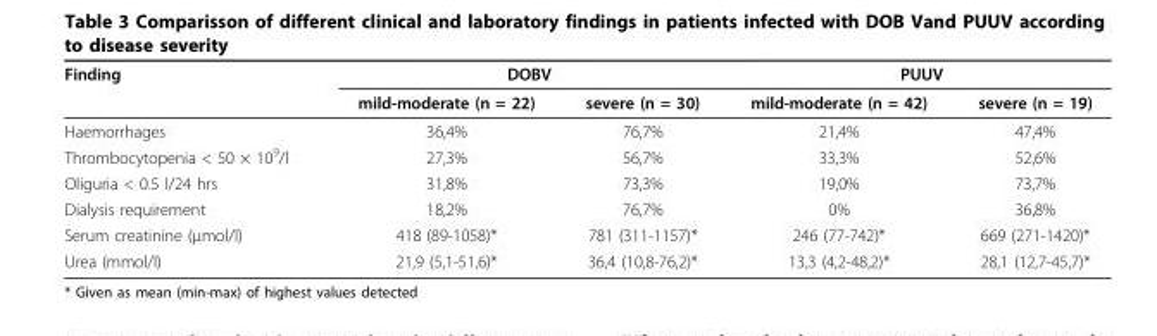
<table><thead><tr><td rowspan="2">Finding</td><td colspan="2">DOBV</td><td colspan="2">PUUV</td></tr><tr><td>mild-moderate (n = 22)</td><td>severe (n = 30)</td><td>mild-moderate (n = 42)</td><td>severe (n = 19)</td></tr></thead><tbody><tr><td>Haemorrhages</td><td>36,4%</td><td>76,7%</td><td>21,4%</td><td>47,4%</td></tr><tr><td>Thrombocytopenia &lt; 50 × 10<sup>9</sup>/l</td><td>27,3%</td><td>56,7%</td><td>33,3%</td><td>52,6%</td></tr><tr><td>Oliguria &lt; 0.5 l/24 hrs</td><td>31,8%</td><td>73,3%</td><td>19,0%</td><td>73,7%</td></tr><tr><td>Dialysis requirement</td><td>18,2%</td><td>76,7%</td><td>0%</td><td>36,8%</td></tr><tr><td>Serum creatinine (μmol/l)</td><td>418 (89-1058)*</td><td>781 (311-1157)*</td><td>246 (77-742)*</td><td>669 (271-1420)*</td></tr><tr><td>Urea (mmol/l)</td><td>21,9 (5,1-51,6)*</td><td>36,4 (10,8-76,2)*</td><td>13,3 (4,2-48,2)*</td><td>28,1 (12,7-45,7)*</td></tr></tbody></table>